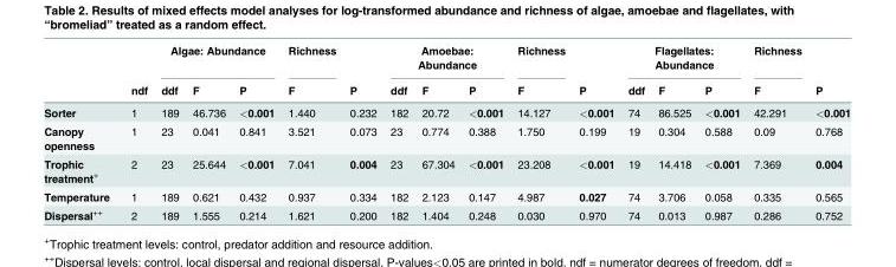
<table><thead><tr><td rowspan="2"></td><td rowspan="2">ndf</td><td colspan="3">Algae: Abundance</td><td rowspan="2">Richness F</td><td rowspan="2">P</td><td colspan="3">Amoebae: Abundance</td><td rowspan="2">Richness F</td><td rowspan="2">P</td><td colspan="3">Flagellates: Abundance</td><td rowspan="2">Richness F</td><td rowspan="2">P</td></tr><tr><td>ddf</td><td>F</td><td>P</td><td>ddf</td><td>F</td><td>P</td><td>ddf</td><td>F</td><td>P</td></tr></thead><tbody><tr><td>Sorter</td><td>1</td><td>189</td><td>46.736</td><td>&lt;0.001</td><td>1.440</td><td>0.232</td><td>182</td><td>20.72</td><td>&lt;0.001</td><td>14.127</td><td>&lt;0.001</td><td>74</td><td>86.525</td><td>&lt;0.001</td><td>42.291</td><td>&lt;0.001</td></tr><tr><td>Canopy openness</td><td>1</td><td>23</td><td>0.041</td><td>0.841</td><td>3.521</td><td>0.073</td><td>23</td><td>0.774</td><td>0.388</td><td>1.750</td><td>0.199</td><td>19</td><td>0.304</td><td>0.588</td><td>0.09</td><td>0.768</td></tr><tr><td>Trophic treatment<sup>+</sup></td><td>2</td><td>23</td><td>25.644</td><td>&lt;0.001</td><td>7.041</td><td>0.004</td><td>23</td><td>67.304</td><td>&lt;0.001</td><td>23.208</td><td>&lt;0.001</td><td>19</td><td>14.418</td><td>&lt;0.001</td><td>7.369</td><td>0.004</td></tr><tr><td>Temperature</td><td>1</td><td>189</td><td>0.621</td><td>0.432</td><td>0.937</td><td>0.334</td><td>182</td><td>2.123</td><td>0.147</td><td>4.987</td><td>0.027</td><td>74</td><td>3.706</td><td>0.058</td><td>0.335</td><td>0.565</td></tr><tr><td>Dispersal<sup>++</sup></td><td>2</td><td>189</td><td>1.555</td><td>0.214</td><td>1.621</td><td>0.200</td><td>182</td><td>1.404</td><td>0.248</td><td>0.030</td><td>0.970</td><td>74</td><td>0.013</td><td>0.987</td><td>0.286</td><td>0.752</td></tr></tbody></table>